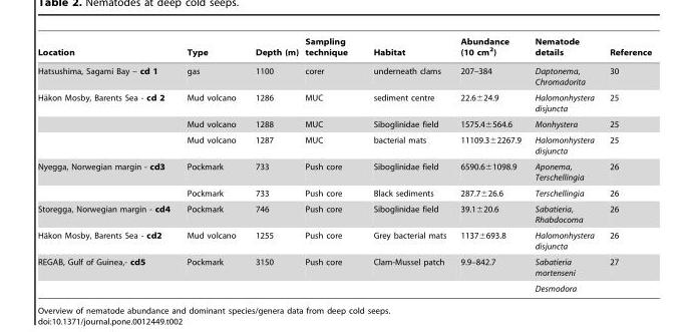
<table><thead><tr><td>Location</td><td>Type</td><td>Depth (m)</td><td>Sampling technique</td><td>Habitat</td><td>Abundance (10 cm<sup>2</sup>)</td><td>Nematode details</td><td>Reference</td></tr></thead><tbody><tr><td>Hatsushima, Sagami Bay – cd 1</td><td>gas</td><td>1100</td><td>corer</td><td>underneath clams</td><td>207–384</td><td>Daptonema, Chromadorita</td><td>30</td></tr><tr><td rowspan="3">Ha¨kon Mosby, Barents Sea - cd 2</td><td>Mud volcano</td><td>1286</td><td>MUC</td><td>sediment centre</td><td>22.6±24.9</td><td>Halomonhystera disjuncta</td><td>25</td></tr><tr><td>Mud volcano</td><td>1288</td><td>MUC</td><td>Siboglinidae field</td><td>1575.4±564.6</td><td>Monhystera</td><td>25</td></tr><tr><td>Mud volcano</td><td>1287</td><td>MUC</td><td>bacterial mats</td><td>11109.3±2267.9</td><td>Halomonhystera disjuncta</td><td>25</td></tr><tr><td rowspan="2">Nyegga, Norwegian margin - cd3</td><td>Pockmark</td><td>733</td><td>Push core</td><td>Siboglinidae field</td><td>6590.6±1098.9</td><td>Aponema, Terschellingia</td><td>26</td></tr><tr><td>Pockmark</td><td>733</td><td>Push core</td><td>Black sediments</td><td>287.7±26.6</td><td>Terschellingia</td><td>26</td></tr><tr><td>Storegga, Norwegian margin - cd4</td><td>Pockmark</td><td>746</td><td>Push core</td><td>Siboglinidae field</td><td>39.1±20.6</td><td>Sabatieria, Rhabdocoma</td><td>26</td></tr><tr><td>Ha¨kon Mosby, Barents Sea - cd2</td><td>Mud volcano</td><td>1255</td><td>Push core</td><td>Grey bacterial mats</td><td>1137±693.8</td><td>Halomonhystera disjuncta</td><td>26</td></tr><tr><td rowspan="2">REGAB, Gulf of Guinea,- cd5</td><td>Pockmark</td><td>3150</td><td>Push core</td><td>Clam-Mussel patch</td><td>9.9–842.7</td><td>Sabatieria mortenseni</td><td>27</td></tr><tr><td></td><td></td><td></td><td></td><td></td><td>Desmodora</td><td></td></tr></tbody></table>